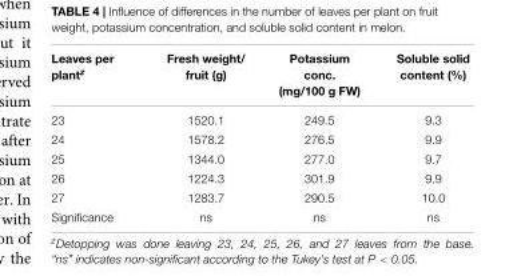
<table><thead><tr><td>Leaves per plant<sup>z</sup></td><td>Fresh weight/ fruit (g)</td><td>Potassium conc. (mg/100 g FW)</td><td>Soluble solid content (%)</td></tr></thead><tbody><tr><td>23</td><td>1520.1</td><td>249.5</td><td>9.3</td></tr><tr><td>24</td><td>1578.2</td><td>276.5</td><td>9.9</td></tr><tr><td>25</td><td>1344.0</td><td>277.0</td><td>9.7</td></tr><tr><td>26</td><td>1224.3</td><td>301.9</td><td>9.9</td></tr><tr><td>27</td><td>1283.7</td><td>290.5</td><td>10.0</td></tr><tr><td>Significance</td><td>ns</td><td>ns</td><td>ns</td></tr></tbody></table>